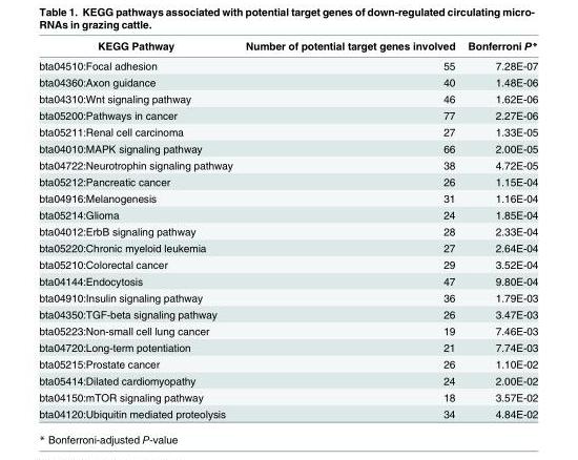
<table><thead><tr><td>KEGG Pathway</td><td>Number of potential target genes involved</td><td>Bonferroni P*</td></tr></thead><tbody><tr><td>bta04510:Focal adhesion</td><td>55</td><td>7.28E-07</td></tr><tr><td>bta04360:Axon guidance</td><td>40</td><td>1.48E-06</td></tr><tr><td>bta04310:Wnt signaling pathway</td><td>46</td><td>1.62E-06</td></tr><tr><td>bta05200:Pathways in cancer</td><td>77</td><td>2.27E-06</td></tr><tr><td>bta05211:Renal cell carcinoma</td><td>27</td><td>1.33E-05</td></tr><tr><td>bta04010:MAPK signaling pathway</td><td>66</td><td>2.00E-05</td></tr><tr><td>bta04722:Neurotrophin signaling pathway</td><td>38</td><td>4.72E-05</td></tr><tr><td>bta05212:Pancreatic cancer</td><td>26</td><td>1.15E-04</td></tr><tr><td>bta04916:Melanogenesis</td><td>31</td><td>1.16E-04</td></tr><tr><td>bta05214:Glioma</td><td>24</td><td>1.85E-04</td></tr><tr><td>bta04012:ErbB signaling pathway</td><td>28</td><td>2.33E-04</td></tr><tr><td>bta05220:Chronic myeloid leukemia</td><td>27</td><td>2.64E-04</td></tr><tr><td>bta05210:Colorectal cancer</td><td>29</td><td>3.52E-04</td></tr><tr><td>bta04144:Endocytosis</td><td>47</td><td>9.80E-04</td></tr><tr><td>bta04910:Insulin signaling pathway</td><td>36</td><td>1.79E-03</td></tr><tr><td>bta04350:TGF-beta signaling pathway</td><td>26</td><td>3.47E-03</td></tr><tr><td>bta05223:Non-small cell lung cancer</td><td>19</td><td>7.46E-03</td></tr><tr><td>bta04720:Long-term potentiation</td><td>21</td><td>7.74E-03</td></tr><tr><td>bta05215:Prostate cancer</td><td>26</td><td>1.10E-02</td></tr><tr><td>bta05414:Dilated cardiomyopathy</td><td>24</td><td>2.00E-02</td></tr><tr><td>bta04150:mTOR signaling pathway</td><td>18</td><td>3.57E-02</td></tr><tr><td>bta04120:Ubiquitin mediated proteolysis</td><td>34</td><td>4.84E-02</td></tr></tbody></table>